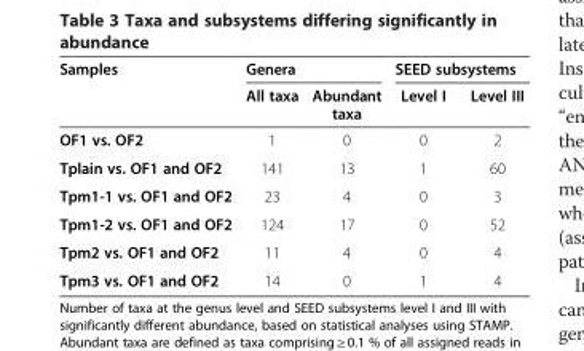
<table><thead><tr><td rowspan="2">Samples</td><td colspan="2">Genera</td><td colspan="2">SEED subsystems</td></tr><tr><td>All taxa</td><td>Abundant taxa</td><td>Level I</td><td>Level III</td></tr></thead><tbody><tr><td>OF1 vs. OF2</td><td>1</td><td>0</td><td>0</td><td>2</td></tr><tr><td>Tplain vs. OF1 and OF2</td><td>141</td><td>13</td><td>1</td><td>60</td></tr><tr><td>Tpm1-1 vs. OF1 and OF2</td><td>23</td><td>4</td><td>0</td><td>3</td></tr><tr><td>Tpm1-2 vs. OF1 and OF2</td><td>124</td><td>17</td><td>0</td><td>52</td></tr><tr><td>Tpm2 vs. OF1 and OF2</td><td>11</td><td>4</td><td>0</td><td>4</td></tr><tr><td>Tpm3 vs. OF1 and OF2</td><td>14</td><td>0</td><td>1</td><td>4</td></tr></tbody></table>